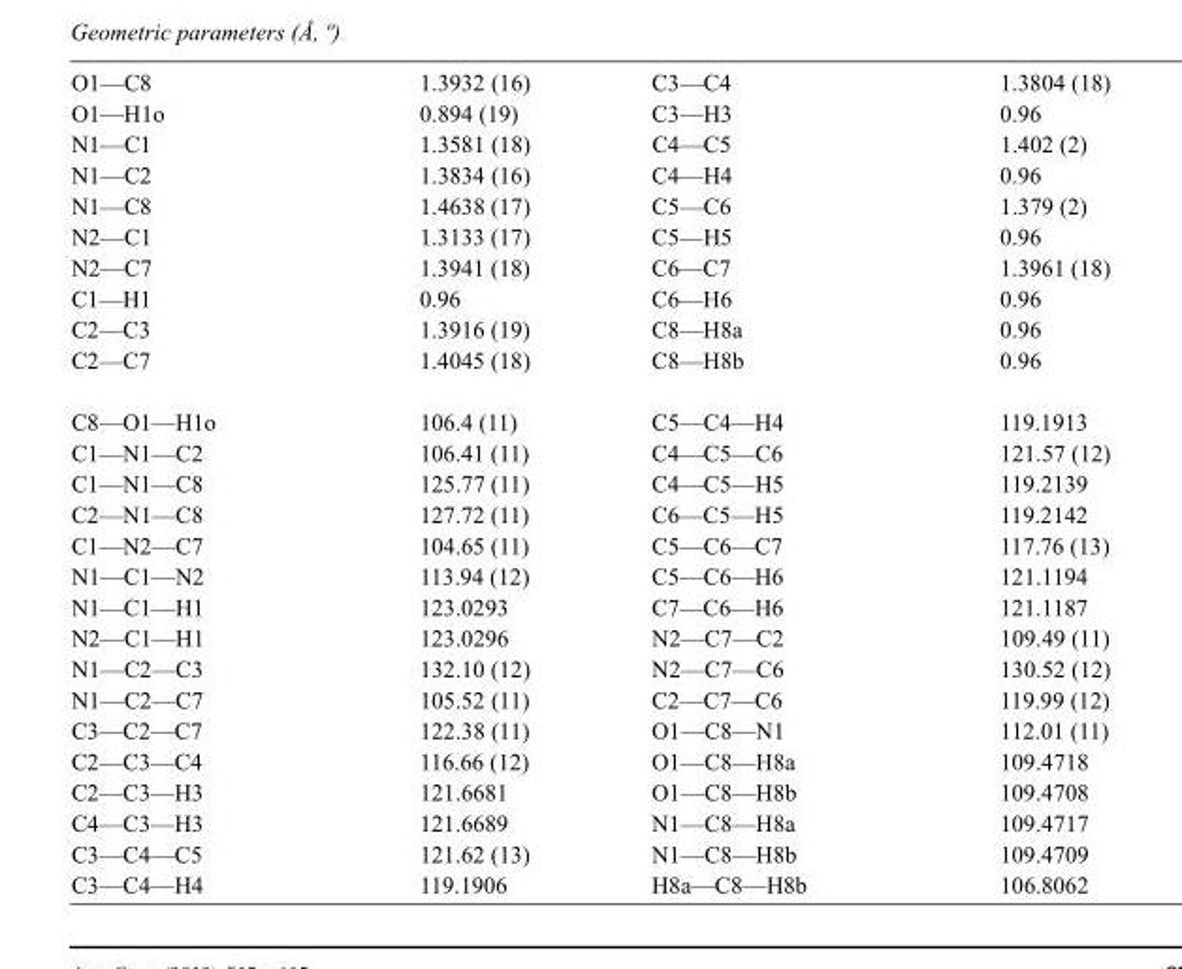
<table><tbody><tr><td>O1—C8</td><td>1.3932 (16)</td><td>C3—C4</td><td>1.3804 (18)</td></tr><tr><td>O1—H1o</td><td>0.894 (19)</td><td>C3—H3</td><td>0.96</td></tr><tr><td>N1—C1</td><td>1.3581 (18)</td><td>C4—C5</td><td>1.402 (2)</td></tr><tr><td>N1—C2</td><td>1.3834 (16)</td><td>C4—H4</td><td>0.96</td></tr><tr><td>N1—C8</td><td>1.4638 (17)</td><td>C5—C6</td><td>1.379 (2)</td></tr><tr><td>N2—C1</td><td>1.3133 (17)</td><td>C5—H5</td><td>0.96</td></tr><tr><td>N2—C7</td><td>1.3941 (18)</td><td>C6—C7</td><td>1.3961 (18)</td></tr><tr><td>C1—H1</td><td>0.96</td><td>C6—H6</td><td>0.96</td></tr><tr><td>C2—C3</td><td>1.3916 (19)</td><td>C8—H8a</td><td>0.96</td></tr><tr><td>C2—C7</td><td>1.4045 (18)</td><td>C8—H8b</td><td>0.96</td></tr><tr><td>C8—O1—H1o</td><td>106.4 (11)</td><td>C5—C4—H4</td><td>119.1913</td></tr><tr><td>C1—N1—C2</td><td>106.41 (11)</td><td>C4—C5—C6</td><td>121.57 (12)</td></tr><tr><td>C1—N1—C8</td><td>125.77 (11)</td><td>C4—C5—H5</td><td>119.2139</td></tr><tr><td>C2—N1—C8</td><td>127.72 (11)</td><td>C6—C5—H5</td><td>119.2142</td></tr><tr><td>C1—N2—C7</td><td>104.65 (11)</td><td>C5—C6—C7</td><td>117.76 (13)</td></tr><tr><td>N1—C1—N2</td><td>113.94 (12)</td><td>C5—C6—H6</td><td>121.1194</td></tr><tr><td>N1—C1—H1</td><td>123.0293</td><td>C7—C6—H6</td><td>121.1187</td></tr><tr><td>N2—C1—H1</td><td>123.0296</td><td>N2—C7—C2</td><td>109.49 (11)</td></tr><tr><td>N1—C2—C3</td><td>132.10 (12)</td><td>N2—C7—C6</td><td>130.52 (12)</td></tr><tr><td>N1—C2—C7</td><td>105.52 (11)</td><td>C2—C7—C6</td><td>119.99 (12)</td></tr><tr><td>C3—C2—C7</td><td>122.38 (11)</td><td>O1—C8—N1</td><td>112.01 (11)</td></tr><tr><td>C2—C3—C4</td><td>116.66 (12)</td><td>O1—C8—H8a</td><td>109.4718</td></tr><tr><td>C2—C3—H3</td><td>121.6681</td><td>O1—C8—H8b</td><td>109.4708</td></tr><tr><td>C4—C3—H3</td><td>121.6689</td><td>N1—C8—H8a</td><td>109.4717</td></tr><tr><td>C3—C4—C5</td><td>121.62 (13)</td><td>N1—C8—H8b</td><td>109.4709</td></tr><tr><td>C3—C4—H4</td><td>119.1906</td><td>H8a—C8—H8b</td><td>106.8062</td></tr></tbody></table>